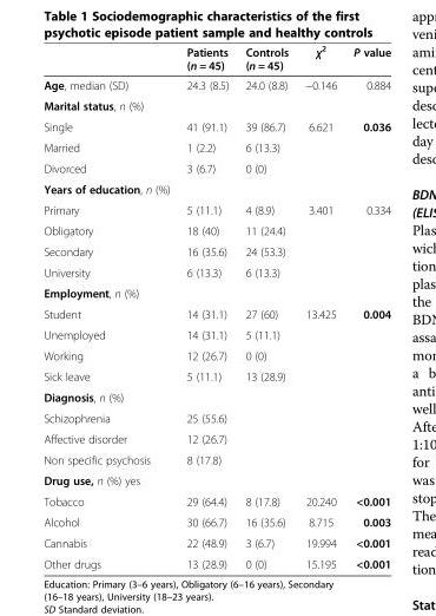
<table><thead><tr><td></td><td>Patients (n = 45)</td><td>Controls (n = 45)</td><td>χ<sup>2</sup></td><td>P value</td></tr></thead><tbody><tr><td>Age, median (SD)</td><td>24.3 (8.5)</td><td>24.0 (8.8)</td><td>−0.146</td><td>0.884</td></tr><tr><td colspan="5">Marital status, n (%)</td></tr><tr><td>Single</td><td>41 (91.1)</td><td>39 (86.7)</td><td>6.621</td><td>0.036</td></tr><tr><td>Married</td><td>1 (2.2)</td><td>6 (13.3)</td><td></td><td></td></tr><tr><td>Divorced</td><td>3 (6.7)</td><td>0 (0)</td><td></td><td></td></tr><tr><td colspan="5">Years of education, n (%)</td></tr><tr><td>Primary</td><td>5 (11.1)</td><td>4 (8.9)</td><td>3.401</td><td>0.334</td></tr><tr><td>Obligatory</td><td>18 (40)</td><td>11 (24.4)</td><td></td><td></td></tr><tr><td>Secondary</td><td>16 (35.6)</td><td>24 (53.3)</td><td></td><td></td></tr><tr><td>University</td><td>6 (13.3)</td><td>6 (13.3)</td><td></td><td></td></tr><tr><td colspan="5">Employment, n (%)</td></tr><tr><td>Student</td><td>14 (31.1)</td><td>27 (60)</td><td>13.425</td><td>0.004</td></tr><tr><td>Unemployed</td><td>14 (31.1)</td><td>5 (11.1)</td><td></td><td></td></tr><tr><td>Working</td><td>12 (26.7)</td><td>0 (0)</td><td></td><td></td></tr><tr><td>Sick leave</td><td>5 (11.1)</td><td>13 (28.9)</td><td></td><td></td></tr><tr><td colspan="5">Diagnosis, n (%)</td></tr><tr><td>Schizophrenia</td><td>25 (55.6)</td><td></td><td></td><td></td></tr><tr><td>Affective disorder</td><td>12 (26.7)</td><td></td><td></td><td></td></tr><tr><td>Non specific psychosis</td><td>8 (17.8)</td><td></td><td></td><td></td></tr><tr><td colspan="5">Drug use, n (%) yes</td></tr><tr><td>Tobacco</td><td>29 (64.4)</td><td>8 (17.8)</td><td>20.240</td><td>&lt;0.001</td></tr><tr><td>Alcohol</td><td>30 (66.7)</td><td>16 (35.6)</td><td>8.715</td><td>0.003</td></tr><tr><td>Cannabis</td><td>22 (48.9)</td><td>3 (6.7)</td><td>19.994</td><td>&lt;0.001</td></tr><tr><td>Other drugs</td><td>13 (28.9)</td><td>0 (0)</td><td>15.195</td><td>&lt;0.001</td></tr></tbody></table>